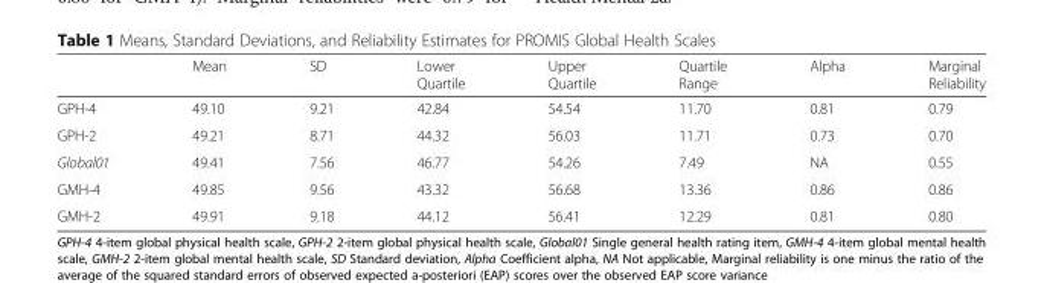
<table><thead><tr><td></td><td>Mean</td><td>SD</td><td>Lower Quartile</td><td>Upper Quartile</td><td>Quartile Range</td><td>Alpha</td><td>Marginal Reliability</td></tr></thead><tbody><tr><td>GPH-4</td><td>49.10</td><td>9.21</td><td>42.84</td><td>54.54</td><td>11.70</td><td>0.81</td><td>0.79</td></tr><tr><td>GPH-2</td><td>49.21</td><td>8.71</td><td>44.32</td><td>56.03</td><td>11.71</td><td>0.73</td><td>0.70</td></tr><tr><td>Global01</td><td>49.41</td><td>7.56</td><td>46.77</td><td>54.26</td><td>7.49</td><td>NA</td><td>0.55</td></tr><tr><td>GMH-4</td><td>49.85</td><td>9.56</td><td>43.32</td><td>56.68</td><td>13.36</td><td>0.86</td><td>0.86</td></tr><tr><td>GMH-2</td><td>49.91</td><td>9.18</td><td>44.12</td><td>56.41</td><td>12.29</td><td>0.81</td><td>0.80</td></tr></tbody></table>